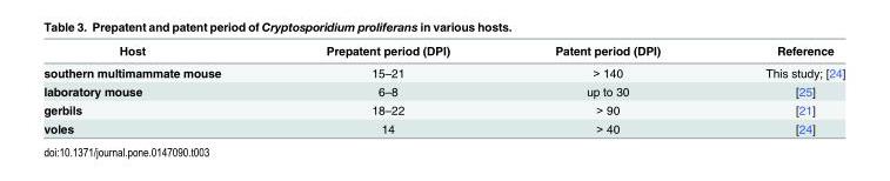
<table><thead><tr><td>Host</td><td>Prepatent period (DPI)</td><td>Patent period (DPI)</td><td>Reference</td></tr></thead><tbody><tr><td>southern multimammate mouse</td><td>15–21</td><td>&gt; 140</td><td>This study; [24]</td></tr><tr><td>laboratory mouse</td><td>6–8</td><td>up to 30</td><td>[25]</td></tr><tr><td>gerbils</td><td>18–22</td><td>&gt; 90</td><td>[21]</td></tr><tr><td>voles</td><td>14</td><td>&gt; 40</td><td>[24]</td></tr></tbody></table>